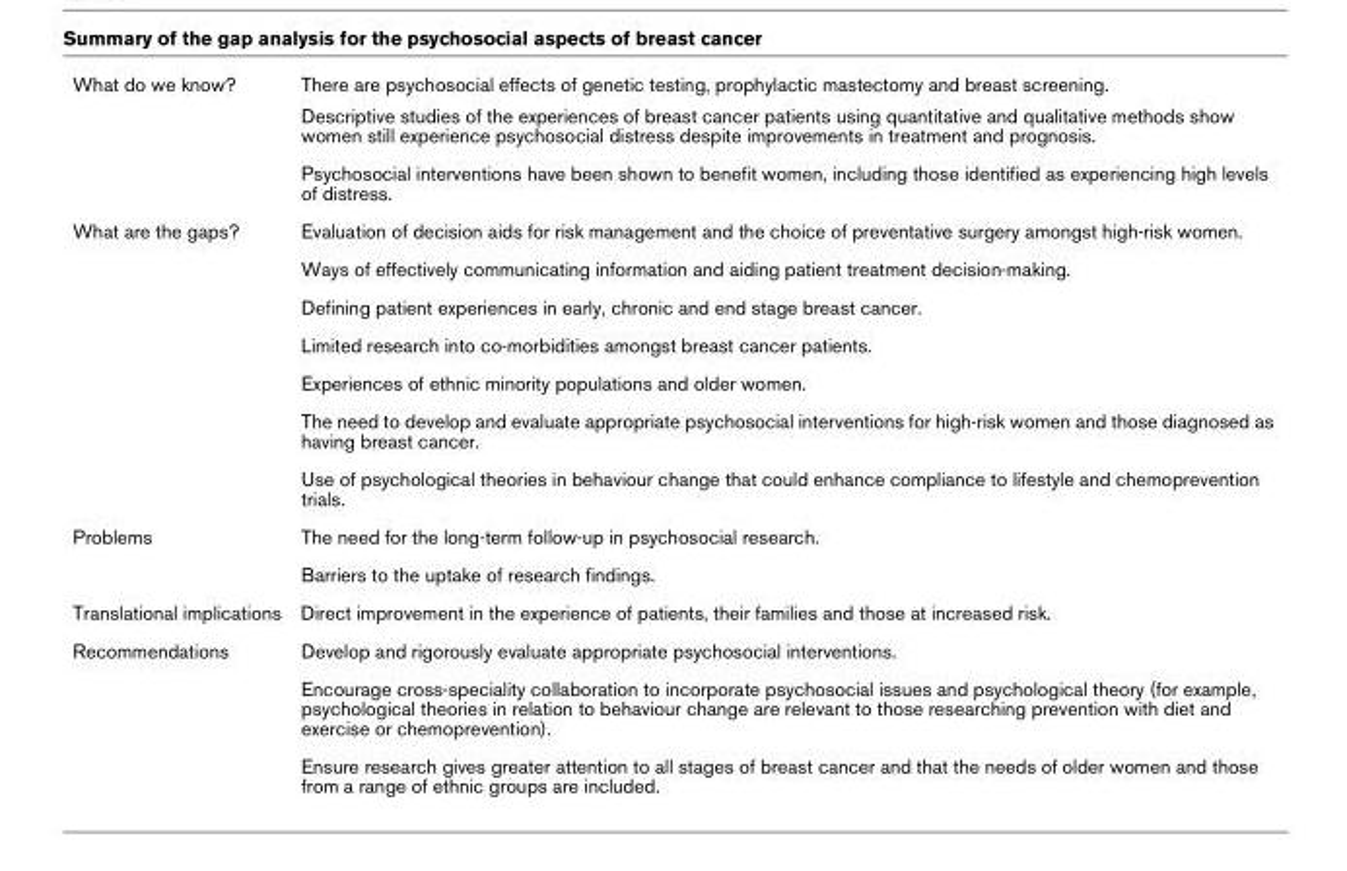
<table><tbody><tr><td rowspan="3">What do we know?</td><td>There are psychosocial effects of genetic testing, prophylactic mastectomy and breast screening.</td></tr><tr><td>Descriptive studies of the experiences of breast cancer patients using quantitative and qualitative methods show women still experience psychosocial distress despite improvements in treatment and prognosis.</td></tr><tr><td>Psychosocial interventions have been shown to benefit women, including those identified as experiencing high levels of distress.</td></tr><tr><td rowspan="7">What are the gaps?</td><td>Evaluation of decision aids for risk management and the choice of preventative surgery amongst high-risk women.</td></tr><tr><td>Ways of effectively communicating information and aiding patient treatment decision-making.</td></tr><tr><td>Defining patient experiences in early, chronic and end stage breast cancer.</td></tr><tr><td>Limited research into co-morbidities amongst breast cancer patients.</td></tr><tr><td>Experiences of ethnic minority populations and older women.</td></tr><tr><td>The need to develop and evaluate appropriate psychosocial interventions for high-risk women and those diagnosed as having breast cancer.</td></tr><tr><td>Use of psychological theories in behaviour change that could enhance compliance to lifestyle and chemoprevention trials.</td></tr><tr><td rowspan="2">Problems</td><td>The need for the long-term follow-up in psychosocial research.</td></tr><tr><td>Barriers to the uptake of research findings.</td></tr><tr><td>Translational implications</td><td>Direct improvement in the experience of patients, their families and those at increased risk.</td></tr><tr><td rowspan="3">Recommendations</td><td>Develop and rigorously evaluate appropriate psychosocial interventions.</td></tr><tr><td>Encourage cross-speciality collaboration to incorporate psychosocial issues and psychological theory (for example, psychological theories in relation to behaviour change are relevant to those researching prevention with diet and exercise or chemoprevention).</td></tr><tr><td>Ensure research gives greater attention to all stages of breast cancer and that the needs of older women and those from a range of ethnic groups are included.</td></tr></tbody></table>